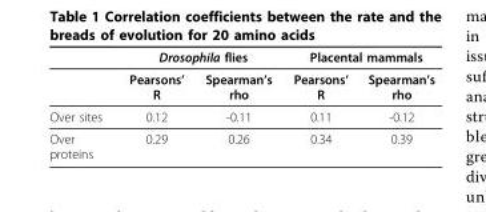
<table><thead><tr><td rowspan="2"></td><td colspan="2">Drosophila flies</td><td colspan="2">Placental mammals</td></tr><tr><td>Pearsons’ R</td><td>Spearman’s rho</td><td>Pearsons’ R</td><td>Spearman’s rho</td></tr></thead><tbody><tr><td>Over sites</td><td>0.12</td><td>-0.11</td><td>0.11</td><td>-0.12</td></tr><tr><td>Over proteins</td><td>0.29</td><td>0.26</td><td>0.34</td><td>0.39</td></tr></tbody></table>